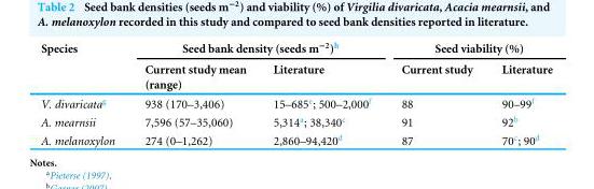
<table><thead><tr><td rowspan="2">Species</td><td colspan="2">Seed bank density (seeds m<sup>−2</sup>)<sup>h</sup></td><td colspan="2">Seed viability (%)</td></tr><tr><td>Current study mean (range)</td><td>Literature</td><td>Current study</td><td>Literature</td></tr></thead><tbody><tr><td>V. divaricata<sup>g</sup></td><td>938 (170–3,406)</td><td>15–685<sup>e</sup>; 500–2,000<sup>f</sup></td><td>88</td><td>90–99<sup>f</sup></td></tr><tr><td>A. mearnsii</td><td>7,596 (57–35,060)</td><td>5,314<sup>a</sup>; 38,340<sup>c</sup></td><td>91</td><td>92<sup>b</sup></td></tr><tr><td>A. melanoxylon</td><td>274 (0–1,262)</td><td>2,860–94,420<sup>d</sup></td><td>87</td><td>70<sup>c</sup>; 90<sup>d</sup></td></tr></tbody></table>